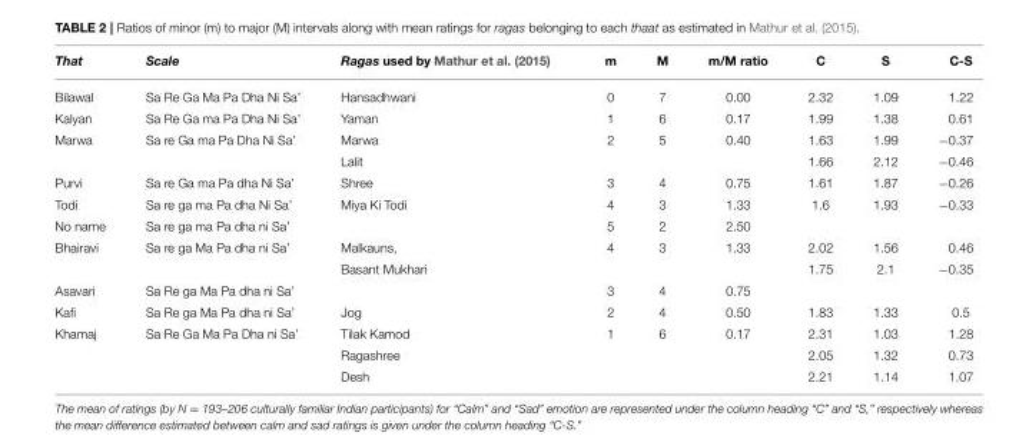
<table><thead><tr><td>That</td><td>Scale</td><td>Ragas used by Mathur et al. (2015)</td><td>m</td><td>M</td><td>m/M ratio</td><td>C</td><td>S</td><td>C-S</td></tr></thead><tbody><tr><td>Bilawal</td><td>Sa Re Ga Ma Pa Dha Ni Sa’</td><td>Hansadhwani</td><td>0</td><td>7</td><td>0.00</td><td>2.32</td><td>1.09</td><td>1.22</td></tr><tr><td>Kalyan</td><td>Sa Re Ga ma Pa Dha Ni Sa’</td><td>Yaman</td><td>1</td><td>6</td><td>0.17</td><td>1.99</td><td>1.38</td><td>0.61</td></tr><tr><td rowspan="2">Marwa</td><td>Sa re Ga ma Pa Dha Ni Sa’</td><td>Marwa</td><td>2</td><td>5</td><td>0.40</td><td>1.63</td><td>1.99</td><td>−0.37</td></tr><tr><td></td><td>Lalit</td><td></td><td></td><td></td><td>1.66</td><td>2.12</td><td>−0.46</td></tr><tr><td>Purvi</td><td>Sa re Ga ma Pa dha Ni Sa’</td><td>Shree</td><td>3</td><td>4</td><td>0.75</td><td>1.61</td><td>1.87</td><td>−0.26</td></tr><tr><td>Todi</td><td>Sa re ga ma Pa dha Ni Sa’</td><td>Miya Ki Todi</td><td>4</td><td>3</td><td>1.33</td><td>1.6</td><td>1.93</td><td>−0.33</td></tr><tr><td>No name</td><td>Sa re ga ma Pa dha ni Sa’</td><td></td><td>5</td><td>2</td><td>2.50</td><td></td><td></td><td></td></tr><tr><td rowspan="2">Bhairavi</td><td>Sa re ga Ma Pa dha ni Sa’</td><td>Malkauns,</td><td>4</td><td>3</td><td>1.33</td><td>2.02</td><td>1.56</td><td>0.46</td></tr><tr><td></td><td>Basant Mukhari</td><td></td><td></td><td></td><td>1.75</td><td>2.1</td><td>−0.35</td></tr><tr><td>Asavari</td><td>Sa Re ga Ma Pa dha ni Sa’</td><td></td><td>3</td><td>4</td><td>0.75</td><td></td><td></td><td></td></tr><tr><td>Kafi</td><td>Sa Re ga Ma Pa dha ni Sa’</td><td>Jog</td><td>2</td><td>4</td><td>0.50</td><td>1.83</td><td>1.33</td><td>0.5</td></tr><tr><td rowspan="3">Khamaj</td><td>Sa Re Ga Ma Pa Dha ni Sa’</td><td>Tilak Kamod</td><td>1</td><td>6</td><td>0.17</td><td>2.31</td><td>1.03</td><td>1.28</td></tr><tr><td></td><td>Ragashree</td><td></td><td></td><td></td><td>2.05</td><td>1.32</td><td>0.73</td></tr><tr><td></td><td>Desh</td><td></td><td></td><td></td><td>2.21</td><td>1.14</td><td>1.07</td></tr></tbody></table>